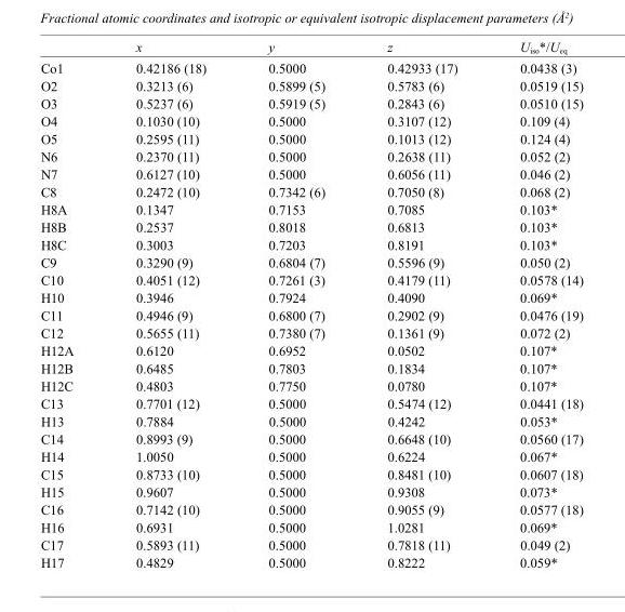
<table><thead><tr><td></td><td>x</td><td>y</td><td>z</td><td>U<sub>iso</sub>*/U<sub>eq</sub></td></tr></thead><tbody><tr><td>Co1</td><td>0.42186 (18)</td><td>0.5000</td><td>0.42933 (17)</td><td>0.0438 (3)</td></tr><tr><td>O2</td><td>0.3213 (6)</td><td>0.5899 (5)</td><td>0.5783 (6)</td><td>0.0519 (15)</td></tr><tr><td>O3</td><td>0.5237 (6)</td><td>0.5919 (5)</td><td>0.2843 (6)</td><td>0.0510 (15)</td></tr><tr><td>O4</td><td>0.1030 (10)</td><td>0.5000</td><td>0.3107 (12)</td><td>0.109 (4)</td></tr><tr><td>O5</td><td>0.2595 (11)</td><td>0.5000</td><td>0.1013 (12)</td><td>0.124 (4)</td></tr><tr><td>N6</td><td>0.2370 (11)</td><td>0.5000</td><td>0.2638 (11)</td><td>0.052 (2)</td></tr><tr><td>N7</td><td>0.6127 (10)</td><td>0.5000</td><td>0.6056 (11)</td><td>0.046 (2)</td></tr><tr><td>C8</td><td>0.2472 (10)</td><td>0.7342 (6)</td><td>0.7050 (8)</td><td>0.068 (2)</td></tr><tr><td>H8A</td><td>0.1347</td><td>0.7153</td><td>0.7085</td><td>0.103*</td></tr><tr><td>H8B</td><td>0.2537</td><td>0.8018</td><td>0.6813</td><td>0.103*</td></tr><tr><td>H8C</td><td>0.3003</td><td>0.7203</td><td>0.8191</td><td>0.103*</td></tr><tr><td>C9</td><td>0.3290 (9)</td><td>0.6804 (7)</td><td>0.5596 (9)</td><td>0.050 (2)</td></tr><tr><td>C10</td><td>0.4051 (12)</td><td>0.7261 (3)</td><td>0.4179 (11)</td><td>0.0578 (14)</td></tr><tr><td>H10</td><td>0.3946</td><td>0.7924</td><td>0.4090</td><td>0.069*</td></tr><tr><td>C11</td><td>0.4946 (9)</td><td>0.6800 (7)</td><td>0.2902 (9)</td><td>0.0476 (19)</td></tr><tr><td>C12</td><td>0.5655 (11)</td><td>0.7380 (7)</td><td>0.1361 (9)</td><td>0.072 (2)</td></tr><tr><td>H12A</td><td>0.6120</td><td>0.6952</td><td>0.0502</td><td>0.107*</td></tr><tr><td>H12B</td><td>0.6485</td><td>0.7803</td><td>0.1834</td><td>0.107*</td></tr><tr><td>H12C</td><td>0.4803</td><td>0.7750</td><td>0.0780</td><td>0.107*</td></tr><tr><td>C13</td><td>0.7701 (12)</td><td>0.5000</td><td>0.5474 (12)</td><td>0.0441 (18)</td></tr><tr><td>H13</td><td>0.7884</td><td>0.5000</td><td>0.4242</td><td>0.053*</td></tr><tr><td>C14</td><td>0.8993 (9)</td><td>0.5000</td><td>0.6648 (10)</td><td>0.0560 (17)</td></tr><tr><td>H14</td><td>1.0050</td><td>0.5000</td><td>0.6224</td><td>0.067*</td></tr><tr><td>C15</td><td>0.8733 (10)</td><td>0.5000</td><td>0.8481 (10)</td><td>0.0607 (18)</td></tr><tr><td>H15</td><td>0.9607</td><td>0.5000</td><td>0.9308</td><td>0.073*</td></tr><tr><td>C16</td><td>0.7142 (10)</td><td>0.5000</td><td>0.9055 (9)</td><td>0.0577 (18)</td></tr><tr><td>H16</td><td>0.6931</td><td>0.5000</td><td>1.0281</td><td>0.069*</td></tr><tr><td>C17</td><td>0.5893 (11)</td><td>0.5000</td><td>0.7818 (11)</td><td>0.049 (2)</td></tr><tr><td>H17</td><td>0.4829</td><td>0.5000</td><td>0.8222</td><td>0.059*</td></tr></tbody></table>